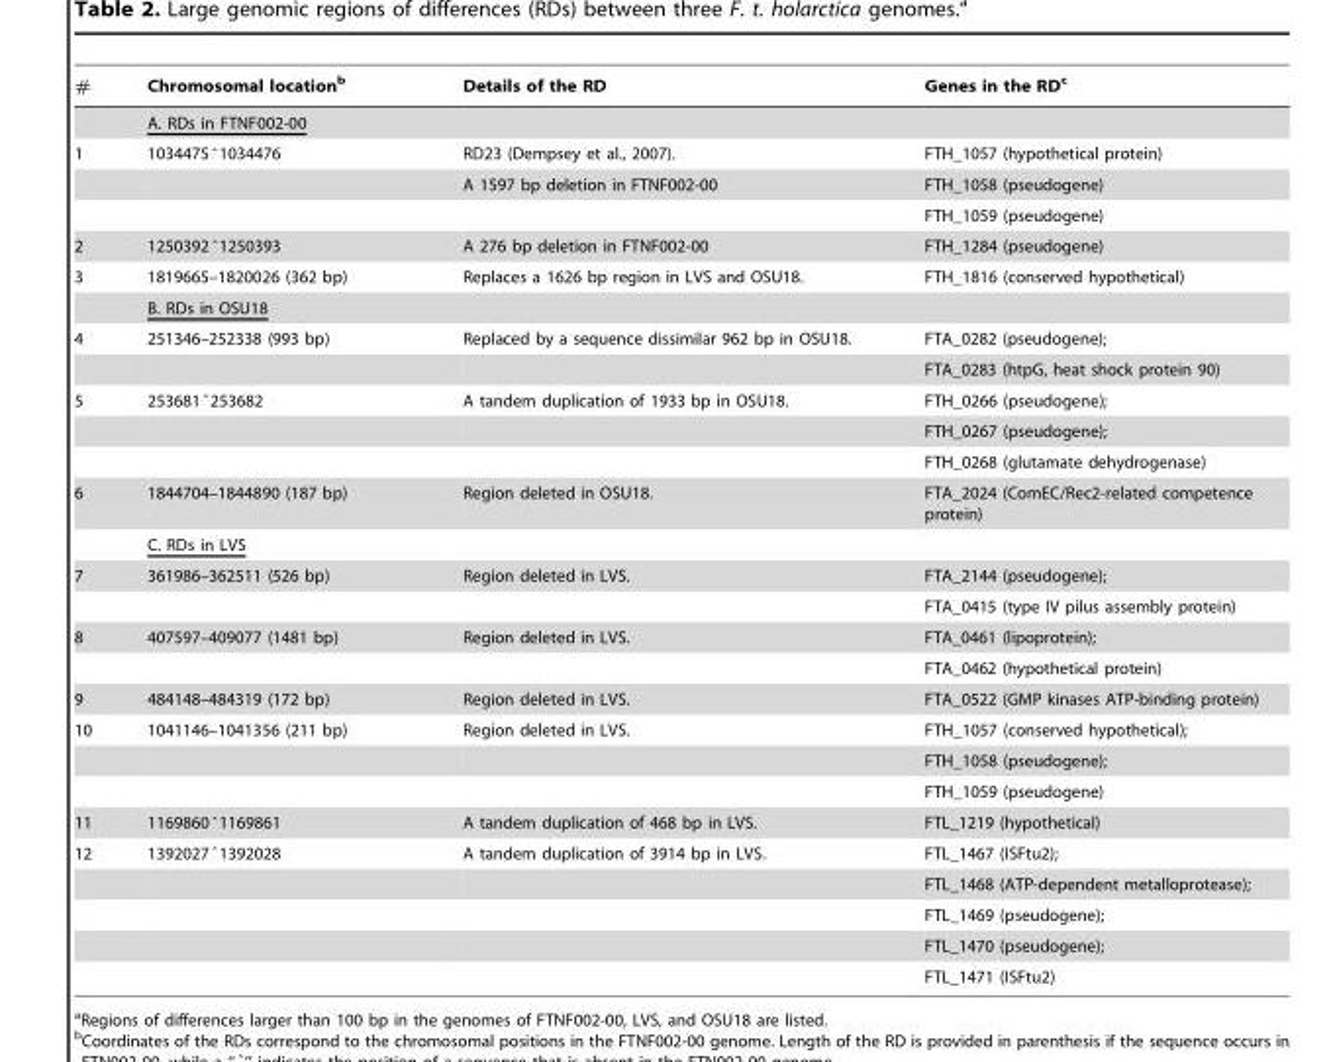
<table><thead><tr><td>#</td><td>Chromosomal location<sup>b</sup></td><td>Details of the RD</td><td>Genes in the RD<sup>c</sup></td></tr></thead><tbody><tr><td></td><td colspan="3">A. RDs in FTNF002-00</td></tr><tr><td rowspan="3">1</td><td>1034475 ˆ1034476</td><td>RD23 (Dempsey et al., 2007).</td><td>FTH_1057 (hypothetical protein)</td></tr><tr><td></td><td>A 1597 bp deletion in FTNF002-00</td><td>FTH_1058 (pseudogene)</td></tr><tr><td></td><td></td><td>FTH_1059 (pseudogene)</td></tr><tr><td>2</td><td>1250392 ˆ1250393</td><td>A 276 bp deletion in FTNF002-00</td><td>FTH_1284 (pseudogene)</td></tr><tr><td rowspan="2">3</td><td>1819665–1820026 (362 bp)</td><td>Replaces a 1626 bp region in LVS and OSU18.</td><td>FTH_1816 (conserved hypothetical)</td></tr><tr><td colspan="3">B. RDs in OSU18</td></tr><tr><td rowspan="2">4</td><td>251346–252338 (993 bp)</td><td>Replaced by a sequence dissimilar 962 bp in OSU18.</td><td>FTA_0282 (pseudogene);</td></tr><tr><td></td><td></td><td>FTA_0283 (htpG, heat shock protein 90)</td></tr><tr><td rowspan="3">5</td><td>253681 ˆ253682</td><td>A tandem duplication of 1933 bp in OSU18.</td><td>FTH_0266 (pseudogene);</td></tr><tr><td></td><td></td><td>FTH_0267 (pseudogene);</td></tr><tr><td></td><td></td><td>FTH_0268 (glutamate dehydrogenase)</td></tr><tr><td rowspan="2">6</td><td>1844704–1844890 (187 bp)</td><td>Region deleted in OSU18.</td><td>FTA_2024 (ComEC/Rec2-related competence protein)</td></tr><tr><td colspan="3">C. RDs in LVS</td></tr><tr><td rowspan="2">7</td><td>361986–362511 (526 bp)</td><td>Region deleted in LVS.</td><td>FTA_2144 (pseudogene);</td></tr><tr><td></td><td></td><td>FTA_0415 (type IV pilus assembly protein)</td></tr><tr><td rowspan="2">8</td><td>407597–409077 (1481 bp)</td><td>Region deleted in LVS.</td><td>FTA_0461 (lipoprotein);</td></tr><tr><td></td><td></td><td>FTA_0462 (hypothetical protein)</td></tr><tr><td>9</td><td>484148–484319 (172 bp)</td><td>Region deleted in LVS.</td><td>FTA_0522 (GMP kinases ATP-binding protein)</td></tr><tr><td rowspan="3">10</td><td>1041146–1041356 (211 bp)</td><td>Region deleted in LVS.</td><td>FTH_1057 (conserved hypothetical);</td></tr><tr><td></td><td></td><td>FTH_1058 (pseudogene);</td></tr><tr><td></td><td></td><td>FTH_1059 (pseudogene)</td></tr><tr><td>11</td><td>1169860 ˆ1169861</td><td>A tandem duplication of 468 bp in LVS.</td><td>FTL_1219 (hypothetical)</td></tr><tr><td rowspan="5">12</td><td>1392027 ˆ1392028</td><td>A tandem duplication of 3914 bp in LVS.</td><td>FTL_1467 (ISFtu2);</td></tr><tr><td></td><td></td><td>FTL_1468 (ATP-dependent metalloprotease);</td></tr><tr><td></td><td></td><td>FTL_1469 (pseudogene);</td></tr><tr><td></td><td></td><td>FTL_1470 (pseudogene);</td></tr><tr><td></td><td></td><td>FTL_1471 (ISFtu2)</td></tr></tbody></table>